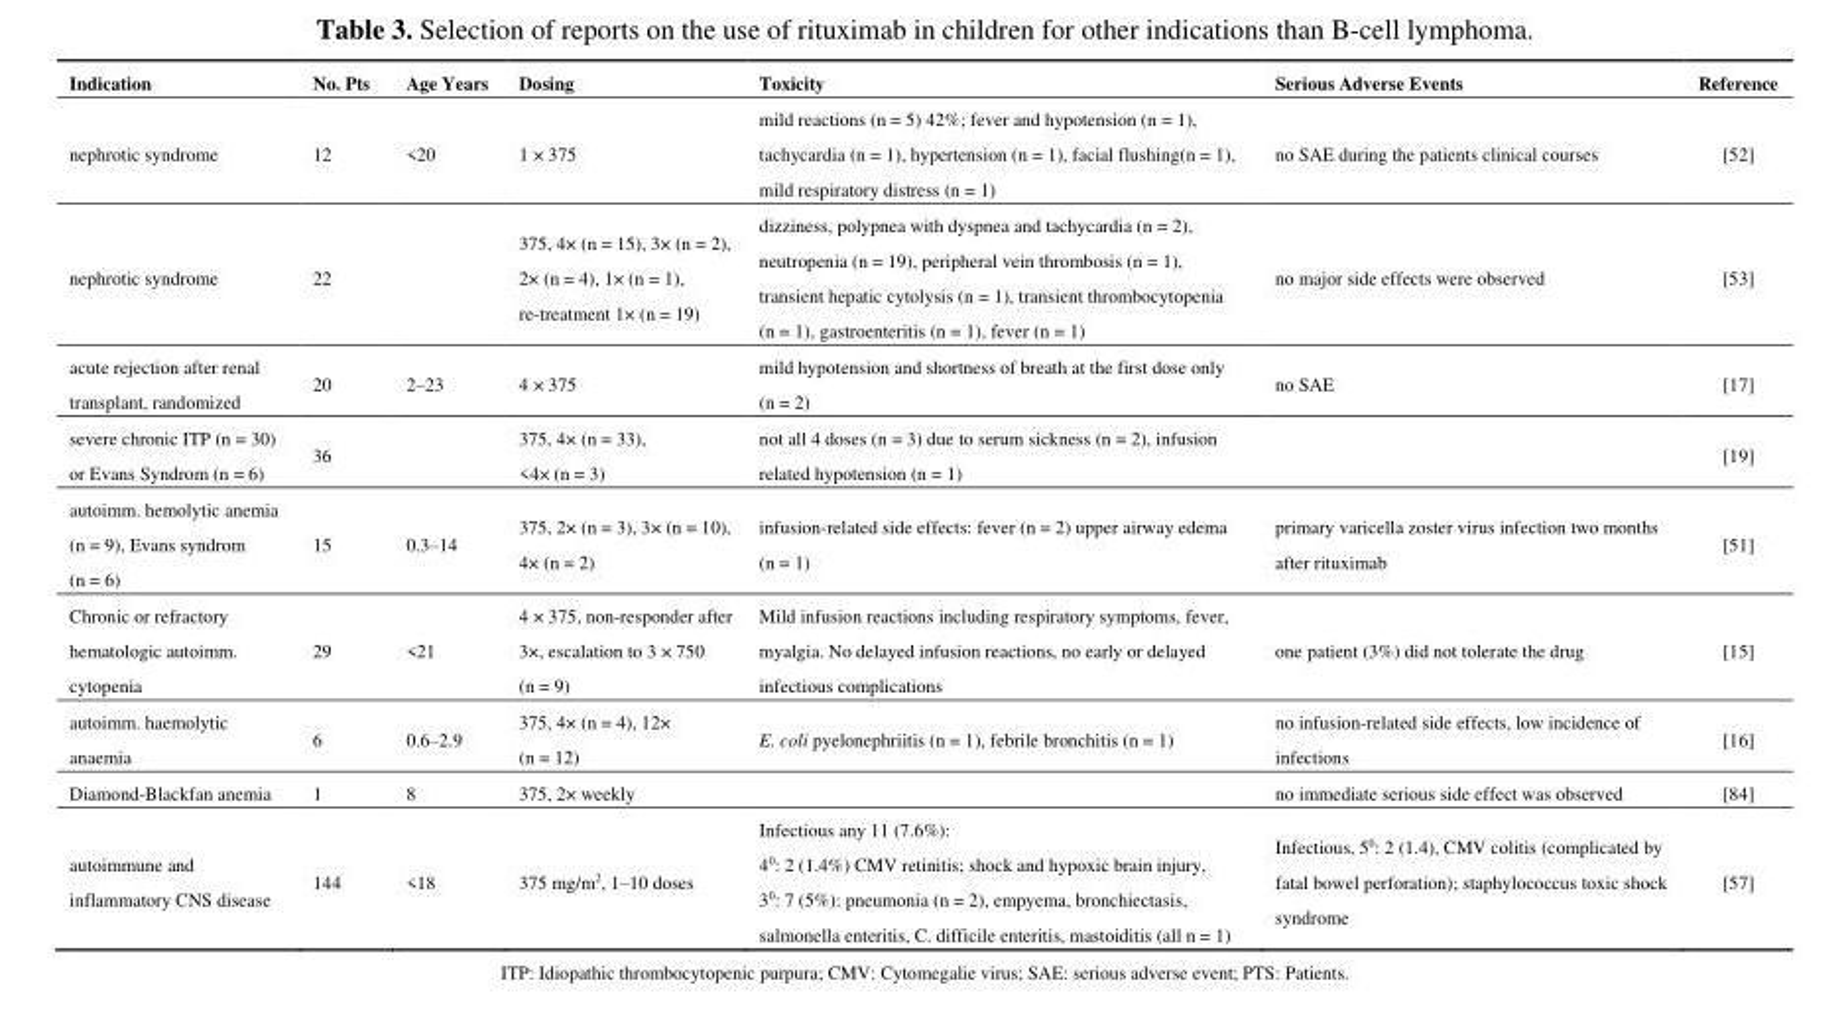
<table><thead><tr><td>Indication</td><td>No. Pts</td><td>Age Years</td><td>Dosing</td><td>Toxicity</td><td>Serious Adverse Events</td><td>Reference</td></tr></thead><tbody><tr><td>nephrotic syndrome</td><td>12</td><td>&lt;20</td><td>1 × 375</td><td>mild reactions (n = 5) 42%; fever and hypotension (n = 1), tachycardia (n = 1), hypertension (n = 1), facial flushing(n = 1), mild respiratory distress (n = 1)</td><td>no SAE during the patients clinical courses</td><td>[52]</td></tr><tr><td>nephrotic syndrome</td><td>22</td><td></td><td>375, 4× (n = 15), 3× (n = 2), 2× (n = 4), 1× (n = 1), re-treatment 1× (n = 19)</td><td>dizziness, polypnea with dyspnea and tachycardia (n = 2), neutropenia (n = 19), peripheral vein thrombosis (n = 1), transient hepatic cytolysis (n = 1), transient thrombocytopenia (n = 1), gastroenteritis (n = 1), fever (n = 1)</td><td>no major side effects were observed</td><td>[53]</td></tr><tr><td>acute rejection after renal transplant, randomized</td><td>20</td><td>2–23</td><td>4 × 375</td><td>mild hypotension and shortness of breath at the first dose only (n = 2)</td><td>no SAE</td><td>[17]</td></tr><tr><td>severe chronic ITP (n = 30) or Evans Syndrom (n = 6)</td><td>36</td><td></td><td>375, 4× (n = 33), &lt;4× (n = 3)</td><td>not all 4 doses (n = 3) due to serum sickness (n = 2), infusion related hypotension (n = 1)</td><td></td><td>[19]</td></tr><tr><td>autoimm. hemolytic anemia (n = 9), Evans syndrom (n = 6)</td><td>15</td><td>0.3–14</td><td>375, 2× (n = 3), 3× (n = 10), 4× (n = 2)</td><td>infusion-related side effects: fever (n = 2) upper airway edema (n = 1)</td><td>primary varicella zoster virus infection two months after rituximab</td><td>[51]</td></tr><tr><td>Chronic or refractory hematologic autoimm. cytopenia</td><td>29</td><td>&lt;21</td><td>4 × 375, non-responder after 3×, escalation to 3 × 750 (n = 9)</td><td>Mild infusion reactions including respiratory symptoms, fever, myalgia. No delayed infusion reactions, no early or delayed infectious complications</td><td>one patient (3%) did not tolerate the drug</td><td>[15]</td></tr><tr><td>autoimm. haemolytic anaemia</td><td>6</td><td>0.6–2.9</td><td>375, 4× (n = 4), 12× (n = 12)</td><td>E. coli pyelonephriitis (n = 1), febrile bronchitis (n = 1)</td><td>no infusion-related side effects, low incidence of infections</td><td>[16]</td></tr><tr><td>Diamond-Blackfan anemia</td><td>1</td><td>8</td><td>375, 2× weekly</td><td></td><td>no immediate serious side effect was observed</td><td>[84]</td></tr><tr><td>autoimmune and inflammatory CNS disease</td><td>144</td><td>&lt;18</td><td>375 mg/m<sup>2</sup>, 1–10 doses</td><td>Infectious any 11 (7.6%): 4<sup>0</sup>: 2 (1.4%) CMV retinitis; shock and hypoxic brain injury, 3<sup>0</sup>: 7 (5%): pneumonia (n = 2), empyema, bronchiectasis, salmonella enteritis, C. difficile enteritis, mastoiditis (all n = 1)</td><td>Infectious, 5<sup>0</sup>: 2 (1.4), CMV colitis (complicated by fatal bowel perforation); staphylococcus toxic shock syndrome</td><td>[57]</td></tr></tbody></table>